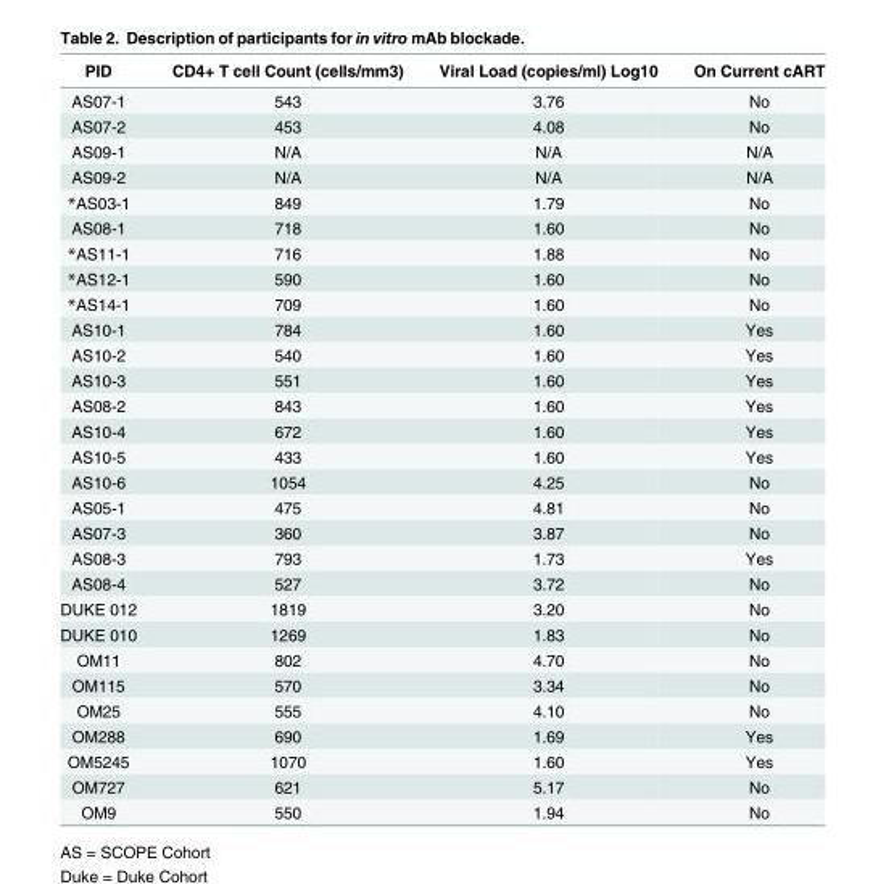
<table><thead><tr><td>PID</td><td>CD4+ T cell Count (cells/mm3)</td><td>Viral Load (copies/ml) Log10</td><td>On Current cART</td></tr></thead><tbody><tr><td>AS07-1</td><td>543</td><td>3.76</td><td>No</td></tr><tr><td>AS07-2</td><td>453</td><td>4.08</td><td>No</td></tr><tr><td>AS09-1</td><td>N/A</td><td>N/A</td><td>N/A</td></tr><tr><td>AS09-2</td><td>N/A</td><td>N/A</td><td>N/A</td></tr><tr><td>*AS03-1</td><td>849</td><td>1.79</td><td>No</td></tr><tr><td>AS08-1</td><td>718</td><td>1.60</td><td>No</td></tr><tr><td>*AS11-1</td><td>716</td><td>1.88</td><td>No</td></tr><tr><td>*AS12-1</td><td>590</td><td>1.60</td><td>No</td></tr><tr><td>*AS14-1</td><td>709</td><td>1.60</td><td>No</td></tr><tr><td>AS10-1</td><td>784</td><td>1.60</td><td>Yes</td></tr><tr><td>AS10-2</td><td>540</td><td>1.60</td><td>Yes</td></tr><tr><td>AS10-3</td><td>551</td><td>1.60</td><td>Yes</td></tr><tr><td>AS08-2</td><td>843</td><td>1.60</td><td>Yes</td></tr><tr><td>AS10-4</td><td>672</td><td>1.60</td><td>Yes</td></tr><tr><td>AS10-5</td><td>433</td><td>1.60</td><td>Yes</td></tr><tr><td>AS10-6</td><td>1054</td><td>4.25</td><td>No</td></tr><tr><td>AS05-1</td><td>475</td><td>4.81</td><td>No</td></tr><tr><td>AS07-3</td><td>360</td><td>3.87</td><td>No</td></tr><tr><td>AS08-3</td><td>793</td><td>1.73</td><td>Yes</td></tr><tr><td>AS08-4</td><td>527</td><td>3.72</td><td>No</td></tr><tr><td>DUKE 012</td><td>1819</td><td>3.20</td><td>No</td></tr><tr><td>DUKE 010</td><td>1269</td><td>1.83</td><td>No</td></tr><tr><td>OM11</td><td>802</td><td>4.70</td><td>No</td></tr><tr><td>OM115</td><td>570</td><td>3.34</td><td>No</td></tr><tr><td>OM25</td><td>555</td><td>4.10</td><td>No</td></tr><tr><td>OM288</td><td>690</td><td>1.69</td><td>Yes</td></tr><tr><td>OM5245</td><td>1070</td><td>1.60</td><td>Yes</td></tr><tr><td>OM727</td><td>621</td><td>5.17</td><td>No</td></tr><tr><td>OM9</td><td>550</td><td>1.94</td><td>No</td></tr></tbody></table>